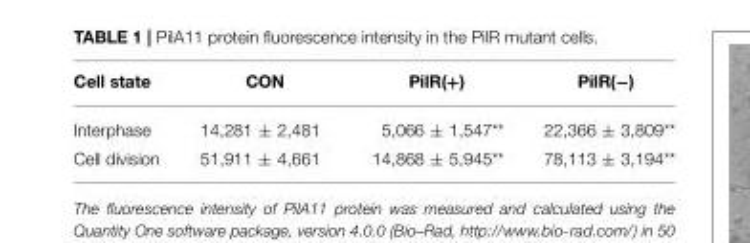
<table><thead><tr><td>Cell state</td><td>CON</td><td>PilR(+)</td><td>PilR(−)</td></tr></thead><tbody><tr><td>Interphase</td><td>14,281 ± 2,481</td><td>5,066 ± 1,547**</td><td>22,366 ± 3,809**</td></tr><tr><td>Cell division</td><td>51,911 ± 4,661</td><td>14,868 ± 5,945**</td><td>78,113 ± 3,194**</td></tr></tbody></table>